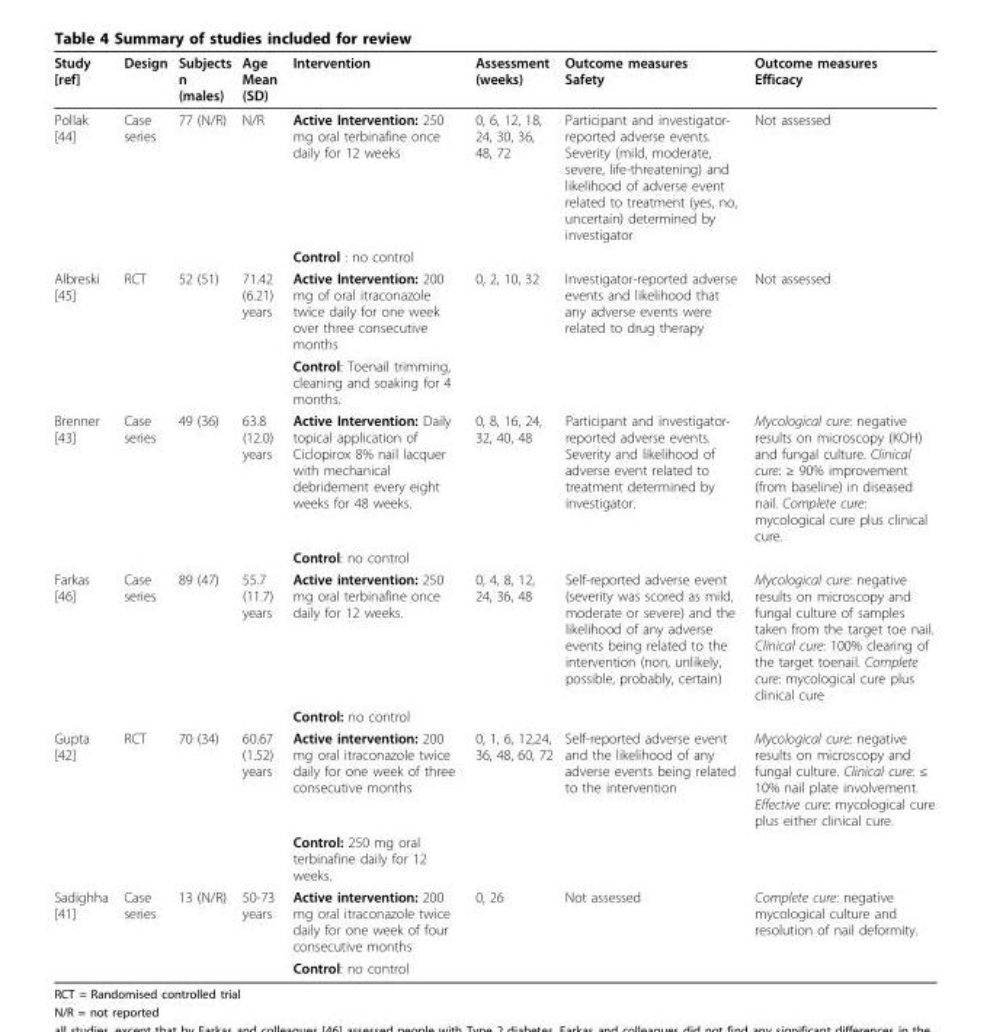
<table><thead><tr><td>Study [ref]</td><td>Design</td><td>Subjects n (males)</td><td>Age Mean (SD)</td><td>Intervention</td><td>Assessment (weeks)</td><td>Outcome measures Safety</td><td>Outcome measures Efficacy</td></tr></thead><tbody><tr><td rowspan="2">Pollak [44]</td><td>Case series</td><td>77 (N/R)</td><td>N/R</td><td>Active Intervention: 250 mg oral terbinafine once daily for 12 weeks</td><td>0, 6, 12, 18, 24, 30, 36, 48, 72</td><td>Participant and investigator- reported adverse events. Severity (mild, moderate, severe, life-threatening) and likelihood of adverse event related to treatment (yes, no, uncertain) determined by investigator</td><td>Not assessed</td></tr><tr><td></td><td></td><td></td><td>Control : no control</td><td></td><td></td><td></td></tr><tr><td rowspan="2">Albreski [45]</td><td>RCT</td><td>52 (51)</td><td>71.42 (6.21) years</td><td>Active Intervention: 200 mg of oral itraconazole twice daily for one week over three consecutive months</td><td>0, 2, 10, 32</td><td>Investigator-reported adverse events and likelihood that any adverse events were related to drug therapy</td><td>Not assessed</td></tr><tr><td></td><td></td><td></td><td>Control: Toenail trimming, cleaning and soaking for 4 months.</td><td></td><td></td><td></td></tr><tr><td rowspan="2">Brenner [43]</td><td>Case series</td><td>49 (36)</td><td>63.8 (12.0) years</td><td>Active Intervention: Daily topical application of Ciclopirox 8% nail lacquer with mechanical debridement every eight weeks for 48 weeks.</td><td>0, 8, 16, 24, 32, 40, 48</td><td>Participant and investigator- reported adverse events. Severity and likelihood of adverse event related to treatment determined by investigator.</td><td>Mycological cure: negative results on microscopy (KOH) and fungal culture. Clinical cure: ≥ 90% improvement (from baseline) in diseased nail. Complete cure: mycological cure plus clinical cure.</td></tr><tr><td></td><td></td><td></td><td>Control: no control</td><td></td><td></td><td></td></tr><tr><td rowspan="2">Farkas [46]</td><td>Case series</td><td>89 (47)</td><td>55.7 (11.7) years</td><td>Active intervention: 250 mg oral terbinafine once daily for 12 weeks.</td><td>0, 4, 8, 12, 24, 36, 48</td><td>Self-reported adverse event (severity was scored as mild, moderate or severe) and the likelihood of any adverse events being related to the intervention (non, unlikely, possible, probably, certain)</td><td>Mycological cure: negative results on microscopy and fungal culture of samples taken from the target toe nail. Clinical cure: 100% clearing of the target toenail. Complete cure: mycological cure plus clinical cure</td></tr><tr><td></td><td></td><td></td><td>Control: no control</td><td></td><td></td><td></td></tr><tr><td rowspan="2">Gupta [42]</td><td>RCT</td><td>70 (34)</td><td>60.67 (1.52) years</td><td>Active intervention: 200 mg oral itraconazole twice daily for one week of three consecutive months</td><td>0, 1, 6, 12,24, 36, 48, 60, 72</td><td>Self-reported adverse event and the likelihood of any adverse events being related to the intervention</td><td>Mycological cure: negative results on microscopy and fungal culture. Clinical cure: ≤ 10% nail plate involvement. Effective cure: mycological cure plus either clinical cure.</td></tr><tr><td></td><td></td><td></td><td>Control: 250 mg oral terbinafine daily for 12 weeks.</td><td></td><td></td><td></td></tr><tr><td rowspan="2">Sadighha [41]</td><td>Case series</td><td>13 (N/R)</td><td>50-73 years</td><td>Active intervention: 200 mg oral itraconazole twice daily for one week of four consecutive months</td><td>0, 26</td><td>Not assessed</td><td>Complete cure: negative mycological culture and resolution of nail deformity.</td></tr><tr><td></td><td></td><td></td><td>Control: no control</td><td></td><td></td><td></td></tr></tbody></table>